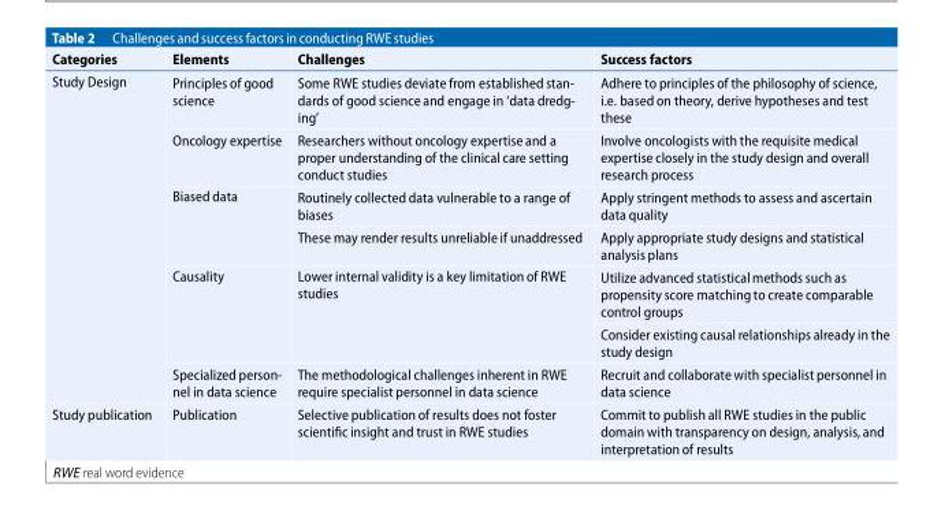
<table><thead><tr><td>Categories</td><td>Elements</td><td>Challenges</td><td>Success factors</td></tr></thead><tbody><tr><td rowspan="7">Study Design</td><td>Principles of good science</td><td>Some RWE studies deviate from establishedstan- dards of good science and engage in ‘data dredg- ing’</td><td>Adhere to principles of the philosophy of science, i.e. based on theory, derive hypotheses and test these</td></tr><tr><td>Oncology expertise</td><td>Researchers without oncology expertise and a proper understanding of the clinical care setting conduct studies</td><td>Involve oncologists with the requisite medical expertise closely in the study design and overall research process</td></tr><tr><td rowspan="2">Biased data</td><td>Routinely collecteddata vulnerable to a range of biases</td><td>Apply stringent methods to assess and ascertain data quality</td></tr><tr><td>These may render results unreliable if unaddressed</td><td>Apply appropriate study designs and statistical analysis plans</td></tr><tr><td rowspan="2">Causality</td><td rowspan="2">Lower internal validity is a key limitation of RWE studies</td><td>Utilize advanced statisticalmethods such as propensity score matching to create comparable control groups</td></tr><tr><td>Consider existing causal relationships already in the study design</td></tr><tr><td>Specialized person- nel in data science</td><td>The methodological challenges inherent in RWE require specialist personnel in data science</td><td>Recruit and collaborate with specialist personnel in data science</td></tr><tr><td>Study publication</td><td>Publication</td><td>Selective publication of results does not foster scientific insight and trust in RWE studies</td><td>Commit to publish all RWE studies in the public domain with transparency on design, analysis, and interpretation of results</td></tr></tbody></table>